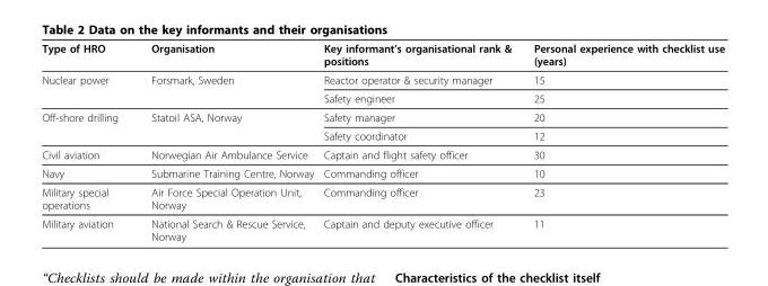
<table><thead><tr><td>Type of HRO</td><td>Organisation</td><td>Key informant’s organisational rank &amp; positions</td><td>Personal experience with checklist use (years)</td></tr></thead><tbody><tr><td rowspan="2">Nuclear power</td><td>Forsmark, Sweden</td><td>Reactor operator &amp; security manager</td><td>15</td></tr><tr><td></td><td>Safety engineer</td><td>25</td></tr><tr><td rowspan="2">Off-shore drilling</td><td>Statoil ASA, Norway</td><td>Safety manager</td><td>20</td></tr><tr><td></td><td>Safety coordinator</td><td>12</td></tr><tr><td>Civil aviation</td><td>Norwegian Air Ambulance Service</td><td>Captain and flight safety officer</td><td>30</td></tr><tr><td>Navy</td><td>Submarine Training Centre, Norway</td><td>Commanding officer</td><td>10</td></tr><tr><td>Military special operations</td><td>Air Force Special Operation Unit, Norway</td><td>Commanding officer</td><td>23</td></tr><tr><td>Military aviation</td><td>National Search &amp; Rescue Service, Norway</td><td>Captain and deputy executive officer</td><td>11</td></tr></tbody></table>